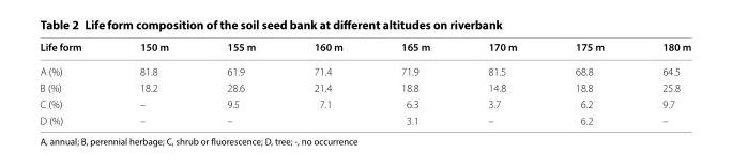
<table><thead><tr><td>Life form</td><td>150 m</td><td>155 m</td><td>160 m</td><td>165 m</td><td>170 m</td><td>175 m</td><td>180 m</td></tr></thead><tbody><tr><td>A (%)</td><td>81.8</td><td>61.9</td><td>71.4</td><td>71.9</td><td>81.5</td><td>68.8</td><td>64.5</td></tr><tr><td>B (%)</td><td>18.2</td><td>28.6</td><td>21.4</td><td>18.8</td><td>14.8</td><td>18.8</td><td>25.8</td></tr><tr><td>C (%)</td><td>–</td><td>9.5</td><td>7.1</td><td>6.3</td><td>3.7</td><td>6.2</td><td>9.7</td></tr><tr><td>D (%)</td><td>–</td><td>–</td><td></td><td>3.1</td><td>–</td><td>6.2</td><td>–</td></tr></tbody></table>